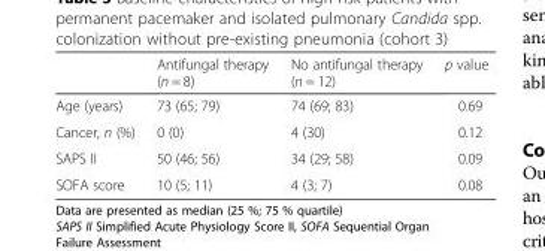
<table><thead><tr><td></td><td>Antifungal therapy (n = 8)</td><td>No antifungal therapy (n = 12)</td><td>p value</td></tr></thead><tbody><tr><td>Age (years)</td><td>73 (65; 79)</td><td>74 (69; 83)</td><td>0.69</td></tr><tr><td>Cancer, n (%)</td><td>0 (0)</td><td>4 (30)</td><td>0.12</td></tr><tr><td>SAPS II</td><td>50 (46; 56)</td><td>34 (29; 58)</td><td>0.09</td></tr><tr><td>SOFA score</td><td>10 (5; 11)</td><td>4 (3; 7)</td><td>0.08</td></tr></tbody></table>